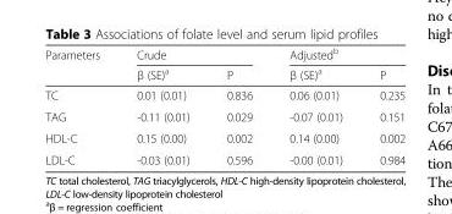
<table><thead><tr><td rowspan="2">Parameters</td><td colspan="2">Crude</td><td colspan="2">Adjusted<sup>b</sup></td></tr><tr><td>β (SE)<sup>a</sup></td><td>P</td><td>β (SE)<sup>a</sup></td><td>P</td></tr></thead><tbody><tr><td>TC</td><td>0.01 (0.01)</td><td>0.836</td><td>0.06 (0.01)</td><td>0.235</td></tr><tr><td>TAG</td><td>-0.11 (0.01)</td><td>0.029</td><td>-0.07 (0.01)</td><td>0.151</td></tr><tr><td>HDL-C</td><td>0.15 (0.00)</td><td>0.002</td><td>0.14 (0.00)</td><td>0.002</td></tr><tr><td>LDL-C</td><td>-0.03 (0.01)</td><td>0.596</td><td>-0.00 (0.01)</td><td>0.984</td></tr></tbody></table>